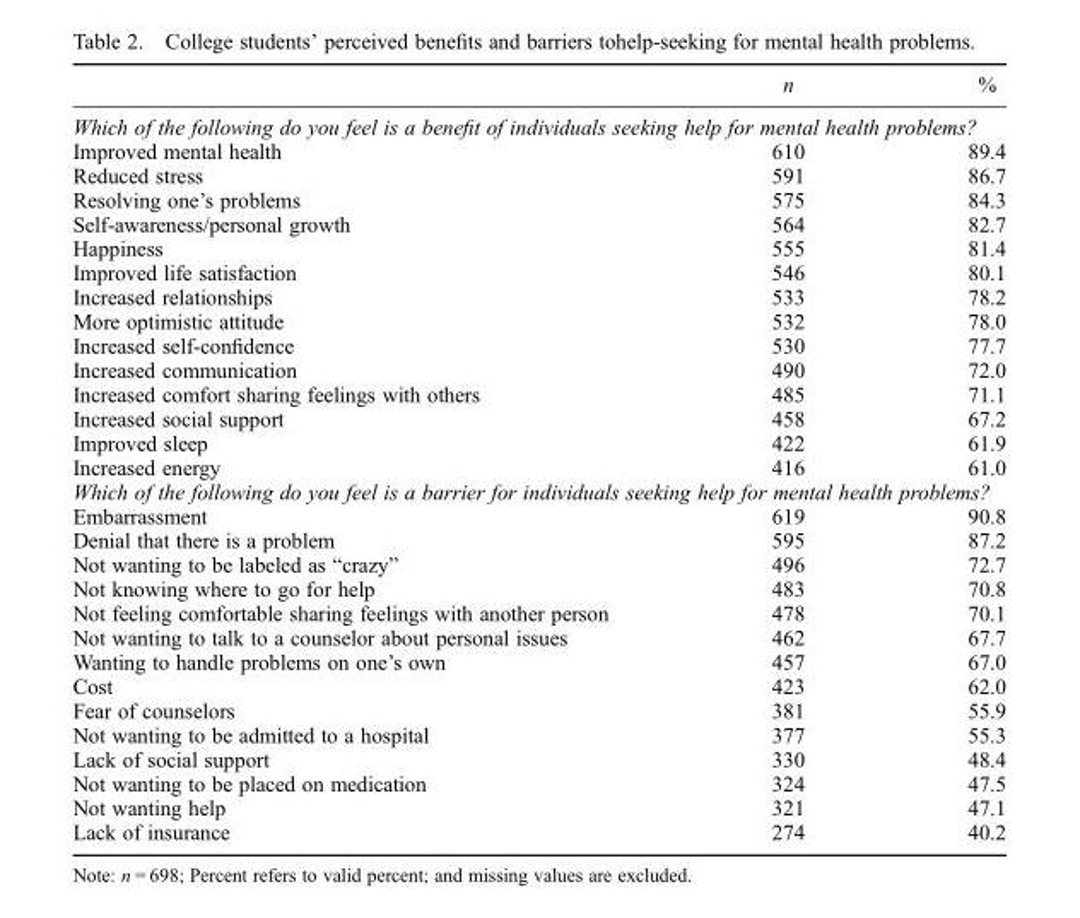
<table><thead><tr><td></td><td>n</td><td>%</td></tr></thead><tbody><tr><td colspan="3">Which of the following do you feel is a benefit of individuals seeking help for mental health problems?</td></tr><tr><td>Improved mental health</td><td>610</td><td>89.4</td></tr><tr><td>Reduced stress</td><td>591</td><td>86.7</td></tr><tr><td>Resolving one’s problems</td><td>575</td><td>84.3</td></tr><tr><td>Self-awareness/personal growth</td><td>564</td><td>82.7</td></tr><tr><td>Happiness</td><td>555</td><td>81.4</td></tr><tr><td>Improved life satisfaction</td><td>546</td><td>80.1</td></tr><tr><td>Increased relationships</td><td>533</td><td>78.2</td></tr><tr><td>More optimistic attitude</td><td>532</td><td>78.0</td></tr><tr><td>Increased self-confidence</td><td>530</td><td>77.7</td></tr><tr><td>Increased communication</td><td>490</td><td>72.0</td></tr><tr><td>Increased comfort sharing feelings with others</td><td>485</td><td>71.1</td></tr><tr><td>Increased social support</td><td>458</td><td>67.2</td></tr><tr><td>Improved sleep</td><td>422</td><td>61.9</td></tr><tr><td>Increased energy</td><td>416</td><td>61.0</td></tr><tr><td colspan="3">Which of the following do you feel is a barrier for individuals seeking help for mental health problems?</td></tr><tr><td>Embarrassment</td><td>619</td><td>90.8</td></tr><tr><td>Denial that there is a problem</td><td>595</td><td>87.2</td></tr><tr><td>Not wanting to be labeled as “crazy”</td><td>496</td><td>72.7</td></tr><tr><td>Not knowing where to go for help</td><td>483</td><td>70.8</td></tr><tr><td>Not feeling comfortable sharing feelings with another person</td><td>478</td><td>70.1</td></tr><tr><td>Not wanting to talk to a counselor about personal issues</td><td>462</td><td>67.7</td></tr><tr><td>Wanting to handle problems on one’s own</td><td>457</td><td>67.0</td></tr><tr><td>Cost</td><td>423</td><td>62.0</td></tr><tr><td>Fear of counselors</td><td>381</td><td>55.9</td></tr><tr><td>Not wanting to be admitted to a hospital</td><td>377</td><td>55.3</td></tr><tr><td>Lack of social support</td><td>330</td><td>48.4</td></tr><tr><td>Not wanting to be placed on medication</td><td>324</td><td>47.5</td></tr><tr><td>Not wanting help</td><td>321</td><td>47.1</td></tr><tr><td>Lack of insurance</td><td>274</td><td>40.2</td></tr></tbody></table>